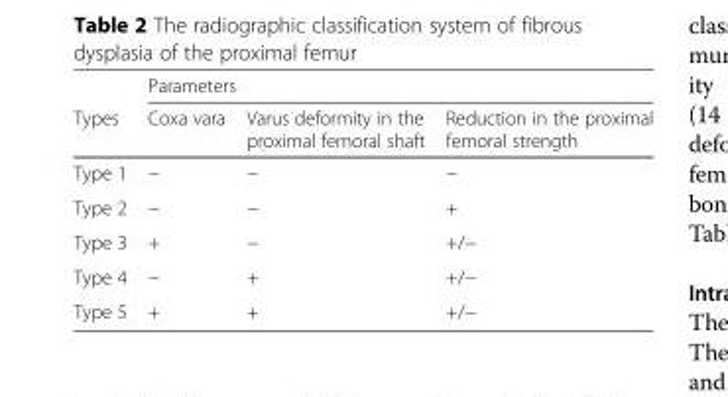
<table><thead><tr><td rowspan="2">Types</td><td colspan="3">Parameters</td></tr><tr><td>Coxa vara</td><td>Varus deformity in the proximal femoral shaft</td><td>Reduction in the proximal femoral strength</td></tr></thead><tbody><tr><td>Type 1</td><td>−</td><td>−</td><td>−</td></tr><tr><td>Type 2</td><td>−</td><td>−</td><td>+</td></tr><tr><td>Type 3</td><td>+</td><td>−</td><td>+/−</td></tr><tr><td>Type 4</td><td>−</td><td>+</td><td>+/−</td></tr><tr><td>Type 5</td><td>+</td><td>+</td><td>+/−</td></tr></tbody></table>